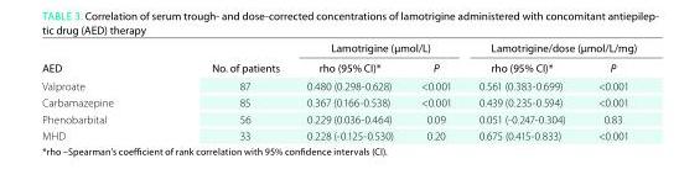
<table><thead><tr><td rowspan="2">aED</td><td rowspan="2">No. of patients</td><td colspan="2">Lamotrigine (μmol/L)</td><td colspan="2">Lamotrigine/dose (μmol/L/mg)</td></tr><tr><td>rho (95% CI)*</td><td>P</td><td>rho (95% CI)*</td><td>P</td></tr></thead><tbody><tr><td>Valproate</td><td>87</td><td>0.480 (0.298-0.628)</td><td>&lt;0.001</td><td>0.561 (0.383-0.699)</td><td>&lt;0.001</td></tr><tr><td>Carbamazepine</td><td>85</td><td>0.367 (0.166-0.538)</td><td>&lt;0.001</td><td>0.439 (0.235-0.594)</td><td>&lt;0.001</td></tr><tr><td>Phenobarbital</td><td>56</td><td>0.229 (0.036-0.464)</td><td>0.09</td><td>0.051 (-0.247-0.304)</td><td>0.83</td></tr><tr><td>MHD</td><td>33</td><td>0.228 (-0.125-0.530)</td><td>0.20</td><td>0.675 (0.415-0.833)</td><td>&lt;0.001</td></tr></tbody></table>